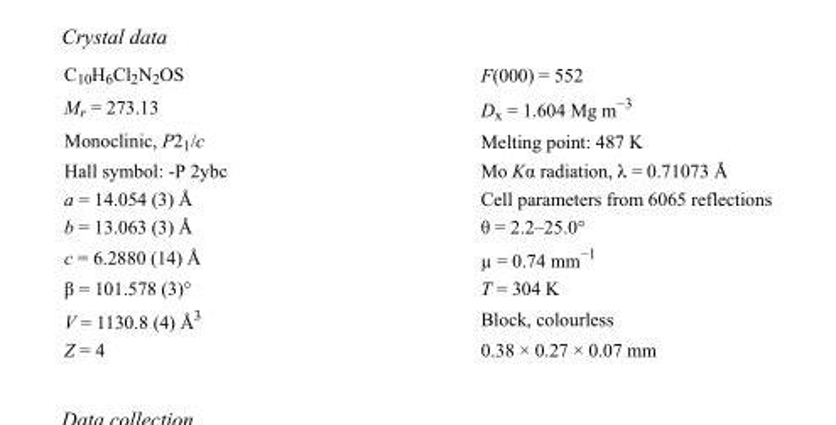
<table><tbody><tr><td>C<sub>10</sub>H<sub>6</sub>Cl<sub>2</sub>N<sub>2</sub>OS</td><td>F(000) = 552</td></tr><tr><td>M<sub>r</sub> = 273.13</td><td>D<sub>x</sub> = 1.604 Mg m<sup>−3</sup></td></tr><tr><td>Monoclinic, P2<sub>1</sub>/c</td><td>Melting point: 487 K</td></tr><tr><td>Hall symbol: -P 2ybc</td><td>Mo Kα radiation, λ = 0.71073 Å</td></tr><tr><td>a = 14.054 (3) Å</td><td>Cell parameters from 6065 reflections</td></tr><tr><td>b = 13.063 (3) Å</td><td>θ = 2.2–25.0°</td></tr><tr><td>c = 6.2880 (14) Å</td><td>µ = 0.74 mm<sup>−1</sup></td></tr><tr><td>β = 101.578 (3)°</td><td>T = 304 K</td></tr><tr><td>V = 1130.8 (4) Å<sup>3</sup></td><td>Block, colourless</td></tr><tr><td>Z = 4</td><td>0.38 × 0.27 × 0.07 mm</td></tr></tbody></table>